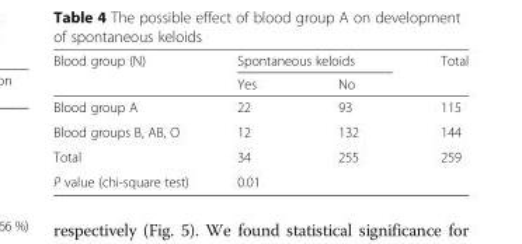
<table><thead><tr><td rowspan="2">Blood group (N)</td><td colspan="2">Spontaneous keloids</td><td rowspan="2">Total</td></tr><tr><td>Yes</td><td>No</td></tr></thead><tbody><tr><td>Blood group A</td><td>22</td><td>93</td><td>115</td></tr><tr><td>Blood groups B, AB, O</td><td>12</td><td>132</td><td>144</td></tr><tr><td>Total</td><td>34</td><td>255</td><td>259</td></tr><tr><td>P value (chi-square test)</td><td colspan="2">0.01</td><td></td></tr></tbody></table>